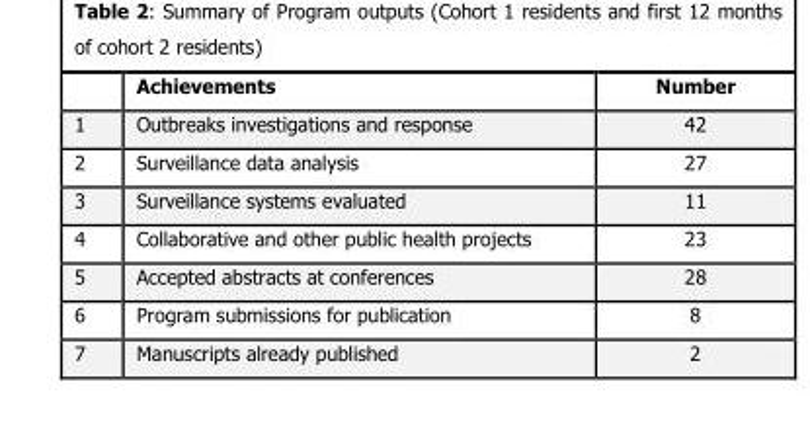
<table><thead><tr><td></td><td>Achievements</td><td>Number</td></tr></thead><tbody><tr><td>1</td><td>Outbreaks investigations and response</td><td>42</td></tr><tr><td>2</td><td>Surveillance data analysis</td><td>27</td></tr><tr><td>3</td><td>Surveillance systems evaluated</td><td>11</td></tr><tr><td>4</td><td>Collaborative and other public health projects</td><td>23</td></tr><tr><td>5</td><td>Accepted abstracts at conferences</td><td>28</td></tr><tr><td>6</td><td>Program submissions for publication</td><td>8</td></tr><tr><td>7</td><td>Manuscripts already published</td><td>2</td></tr></tbody></table>